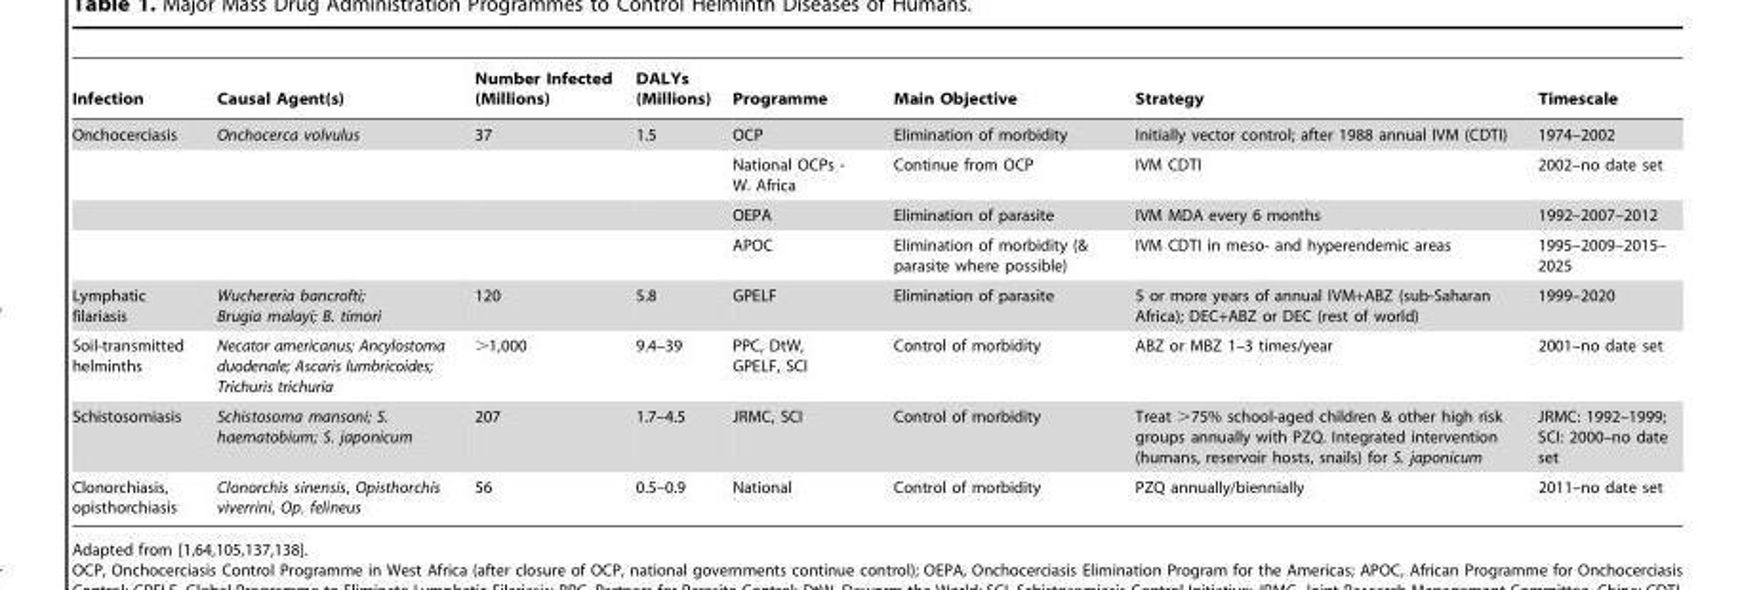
<table><thead><tr><td>Infection</td><td>Causal Agent(s)</td><td>Number Infected (Millions)</td><td>DALYs (Millions)</td><td>Programme</td><td>Main Objective</td><td>Strategy</td><td>Timescale</td></tr></thead><tbody><tr><td rowspan="4">Onchocerciasis</td><td>Onchocerca volvulus</td><td>37</td><td>1.5</td><td>OCP</td><td>Elimination of morbidity</td><td>Initially vector control; after 1988 annual IVM (CDTI)</td><td>1974–2002</td></tr><tr><td></td><td></td><td></td><td>National OCPs - W. Africa</td><td>Continue from OCP</td><td>IVM CDTI</td><td>2002–no date set</td></tr><tr><td></td><td></td><td></td><td>OEPA</td><td>Elimination of parasite</td><td>IVM MDA every 6 months</td><td>1992–2007–2012</td></tr><tr><td></td><td></td><td></td><td>APOC</td><td>Elimination of morbidity (&amp; parasite where possible)</td><td>IVM CDTI in meso- and hyperendemic areas</td><td>1995–2009–2015– 2025</td></tr><tr><td>Lymphatic filariasis</td><td>Wuchereria bancrofti; Brugia malayi; B. timori</td><td>120</td><td>5.8</td><td>GPELF</td><td>Elimination of parasite</td><td>5 or more years of annual IVM+ABZ (sub-Saharan Africa); DEC+ABZ or DEC (rest of world)</td><td>1999–2020</td></tr><tr><td>Soil-transmitted helminths</td><td>Necator americanus; Ancylostoma duodenale; Ascaris lumbricoides; Trichuris trichuria</td><td>&gt;1,000</td><td>9.4–39</td><td>PPC, DtW, GPELF, SCI</td><td>Control of morbidity</td><td>ABZ or MBZ 1–3 times/year</td><td>2001–no date set</td></tr><tr><td>Schistosomiasis</td><td>Schistosoma mansoni; S. haematobium; S. japonicum</td><td>207</td><td>1.7–4.5</td><td>JRMC, SCI</td><td>Control of morbidity</td><td>Treat &gt;75% school-aged children &amp; other high risk groups annually with PZQ. Integrated intervention (humans, reservoir hosts, snails) for S. japonicum</td><td>JRMC: 1992–1999; SCI: 2000–no date set</td></tr><tr><td>Clonorchiasis, opisthorchiasis</td><td>Clonorchis sinensis, Opisthorchis viverrini, Op. felineus</td><td>56</td><td>0.5–0.9</td><td>National</td><td>Control of morbidity</td><td>PZQ annually/biennially</td><td>2011–no date set</td></tr></tbody></table>